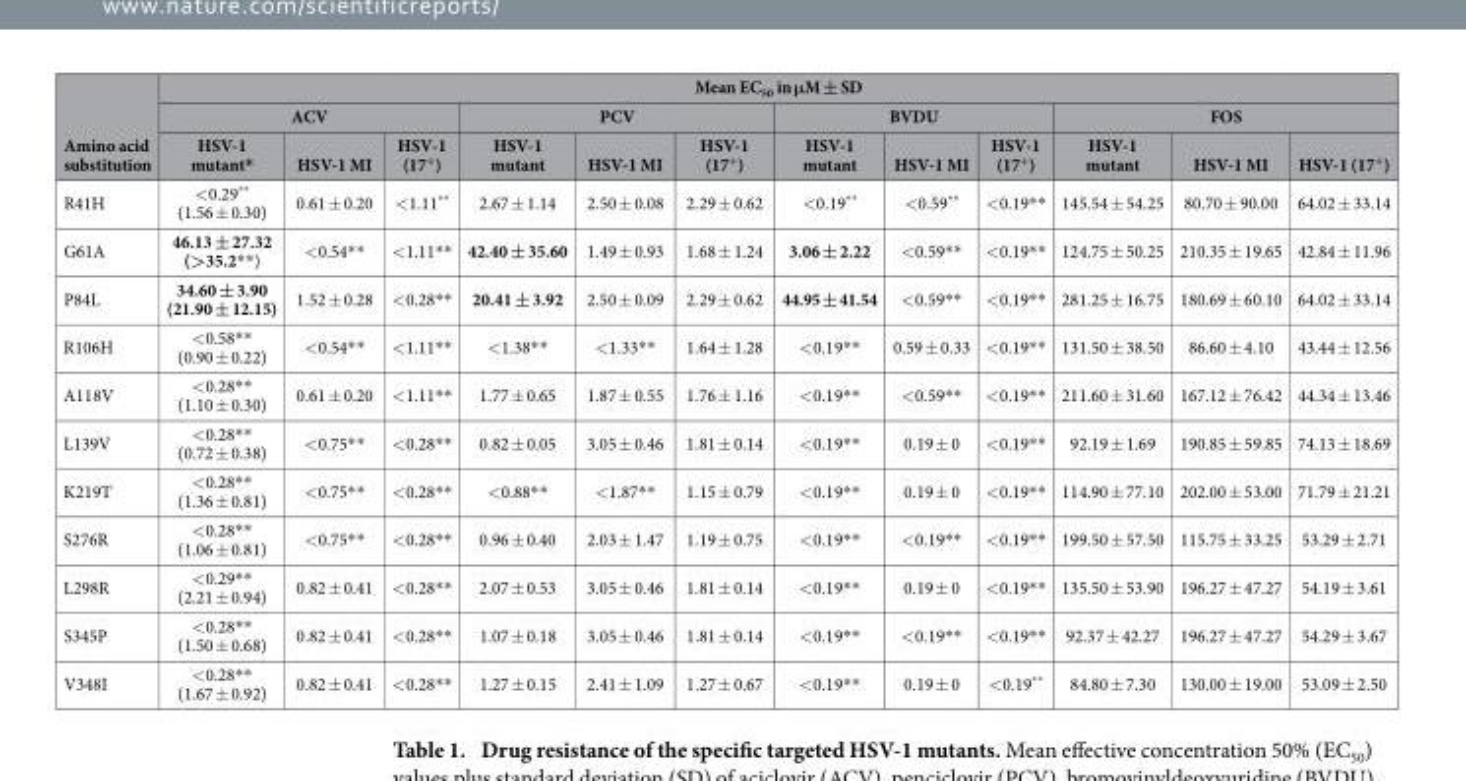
<table><thead><tr><td rowspan="3">Amino acid substitution</td><td colspan="12">Mean EC<sub>50</sub> in μM ± SD</td></tr><tr><td colspan="3">ACV</td><td colspan="3">PCV</td><td colspan="3">BVDU</td><td colspan="3">FOS</td></tr><tr><td>HSV-1 mutant*</td><td>HSV-1 MI</td><td>HSV-1 (17<sup>+</sup>)</td><td>HSV-1 mutant</td><td>HSV-1 MI</td><td>HSV-1 (17<sup>+</sup>)</td><td>HSV-1 mutant</td><td>HSV-1 MI</td><td>HSV-1 (17<sup>+</sup>)</td><td>HSV-1 mutant</td><td>HSV-1 MI</td><td>HSV-1 (17<sup>+</sup>)</td></tr></thead><tbody><tr><td>R41H</td><td>&lt; 0.29** (1.56 ± 0.30)</td><td>0.61 ± 0.20</td><td>&lt; 1.11**</td><td>2.67 ± 1.14</td><td>2.50 ± 0.08</td><td>2.29 ± 0.62</td><td>&lt; 0.19**</td><td>&lt; 0.59**</td><td>&lt; 0.19**</td><td>145.54 ± 54.25</td><td>80.70 ± 90.00</td><td>64.02 ± 33.14</td></tr><tr><td>G61A</td><td>46.13 ± 27.32 (&gt;35.2**)</td><td>&lt; 0.54**</td><td>&lt; 1.11**</td><td>42.40 ± 35.60</td><td>1.49 ± 0.93</td><td>1.68 ± 1.24</td><td>3.06 ± 2.22</td><td>&lt; 0.59**</td><td>&lt; 0.19**</td><td>124.75 ± 50.25</td><td>210.35 ± 19.65</td><td>42.84 ± 11.96</td></tr><tr><td>P84L</td><td>34.60 ± 3.90 (21.90 ± 12.15)</td><td>1.52 ± 0.28</td><td>&lt; 0.28**</td><td>20.41 ± 3.92</td><td>2.50 ± 0.09</td><td>2.29 ± 0.62</td><td>44.95 ± 41.54</td><td>&lt; 0.59**</td><td>&lt; 0.19**</td><td>281.25 ± 16.75</td><td>180.69 ± 60.10</td><td>64.02 ± 33.14</td></tr><tr><td>R106H</td><td>&lt; 0.58** (0.90 ± 0.22)</td><td>&lt; 0.54**</td><td>&lt; 1.11**</td><td>&lt; 1.38**</td><td>&lt; 1.33**</td><td>1.64 ± 1.28</td><td>&lt; 0.19**</td><td>0.59 ± 0.33</td><td>&lt; 0.19**</td><td>131.50 ± 38.50</td><td>86.60 ± 4.10</td><td>43.44 ± 12.56</td></tr><tr><td>A118V</td><td>&lt; 0.28** (1.10 ± 0.30)</td><td>0.61 ± 0.20</td><td>&lt; 1.11**</td><td>1.77 ± 0.65</td><td>1.87 ± 0.55</td><td>1.76 ± 1.16</td><td>&lt; 0.19**</td><td>&lt; 0.59**</td><td>&lt; 0.19**</td><td>211.60 ± 31.60</td><td>167.12 ± 76.42</td><td>44.34 ± 13.46</td></tr><tr><td>L139V</td><td>&lt; 0.28** (0.72 ± 0.38)</td><td>&lt; 0.75**</td><td>&lt; 0.28**</td><td>0.82 ± 0.05</td><td>3.05 ± 0.46</td><td>1.81 ± 0.14</td><td>&lt; 0.19**</td><td>0.19 ± 0</td><td>&lt; 0.19**</td><td>92.19 ± 1.69</td><td>190.85 ± 59.85</td><td>74.13 ± 18.69</td></tr><tr><td>K219T</td><td>&lt; 0.28** (1.36 ± 0.81)</td><td>&lt; 0.75**</td><td>&lt; 0.28**</td><td>&lt; 0.88**</td><td>&lt; 1.87**</td><td>1.15 ± 0.79</td><td>&lt; 0.19**</td><td>0.19 ± 0</td><td>&lt; 0.19**</td><td>114.90 ± 77.10</td><td>202.00 ± 53.00</td><td>71.79 ± 21.21</td></tr><tr><td>S276R</td><td>&lt; 0.28** (1.06 ± 0.81)</td><td>&lt; 0.75**</td><td>&lt; 0.28**</td><td>0.96 ± 0.40</td><td>2.03 ± 1.47</td><td>1.19 ± 0.75</td><td>&lt; 0.19**</td><td>&lt; 0.19**</td><td>&lt; 0.19**</td><td>199.50 ± 57.50</td><td>115.75 ± 33.25</td><td>53.29 ± 2.71</td></tr><tr><td>L298R</td><td>&lt; 0.29** (2.21 ± 0.94)</td><td>0.82 ± 0.41</td><td>&lt; 0.28**</td><td>2.07 ± 0.53</td><td>3.05 ± 0.46</td><td>1.81 ± 0.14</td><td>&lt; 0.19**</td><td>0.19 ± 0</td><td>&lt; 0.19**</td><td>135.50 ± 53.90</td><td>196.27 ± 47.27</td><td>54.19 ± 3.61</td></tr><tr><td>S345P</td><td>&lt; 0.28** (1.50 ± 0.68)</td><td>0.82 ± 0.41</td><td>&lt; 0.28**</td><td>1.07 ± 0.18</td><td>3.05 ± 0.46</td><td>1.81 ± 0.14</td><td>&lt; 0.19**</td><td>&lt; 0.19**</td><td>&lt; 0.19**</td><td>92.37 ± 42.27</td><td>196.27 ± 47.27</td><td>54.29 ± 3.67</td></tr><tr><td>V348I</td><td>&lt; 0.28** (1.67 ± 0.92)</td><td>0.82 ± 0.41</td><td>&lt; 0.28**</td><td>1.27 ± 0.15</td><td>2.41 ± 1.09</td><td>1.27 ± 0.67</td><td>&lt; 0.19**</td><td>0.19 ± 0</td><td>&lt; 0.19**</td><td>84.80 ± 7.30</td><td>130.00 ± 19.00</td><td>53.09 ± 2.50</td></tr></tbody></table>